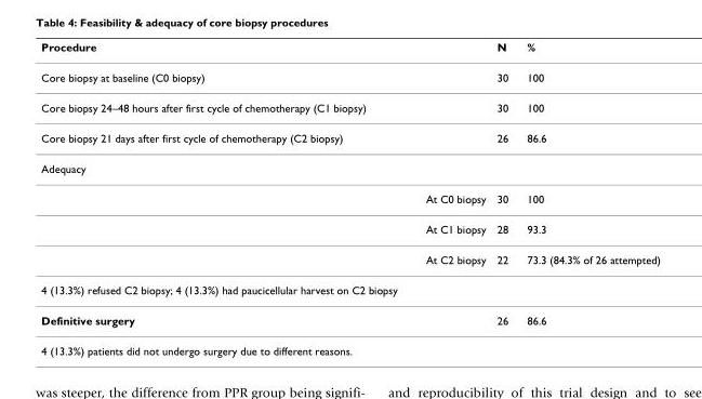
<table><thead><tr><td>Procedure</td><td>N</td><td>%</td></tr></thead><tbody><tr><td>Core biopsy at baseline (C0 biopsy)</td><td>30</td><td>100</td></tr><tr><td>Core biopsy 24–48 hours after first cycle of chemotherapy (C1 biopsy)</td><td>30</td><td>100</td></tr><tr><td>Core biopsy 21 days after first cycle of chemotherapy (C2 biopsy)</td><td>26</td><td>86.6</td></tr><tr><td colspan="3">Adequacy</td></tr><tr><td>At C0 biopsy</td><td>30</td><td>100</td></tr><tr><td>At C1 biopsy</td><td>28</td><td>93.3</td></tr><tr><td>At C2 biopsy</td><td>22</td><td>73.3 (84.3% of 26 attempted)</td></tr><tr><td colspan="3">4 (13.3%) refused C2 biopsy; 4 (13.3%) had paucicellular harvest on C2 biopsy</td></tr><tr><td>Definitive surgery</td><td>26</td><td>86.6</td></tr><tr><td colspan="3">4 (13.3%) patients did not undergo surgery due to different reasons.</td></tr></tbody></table>